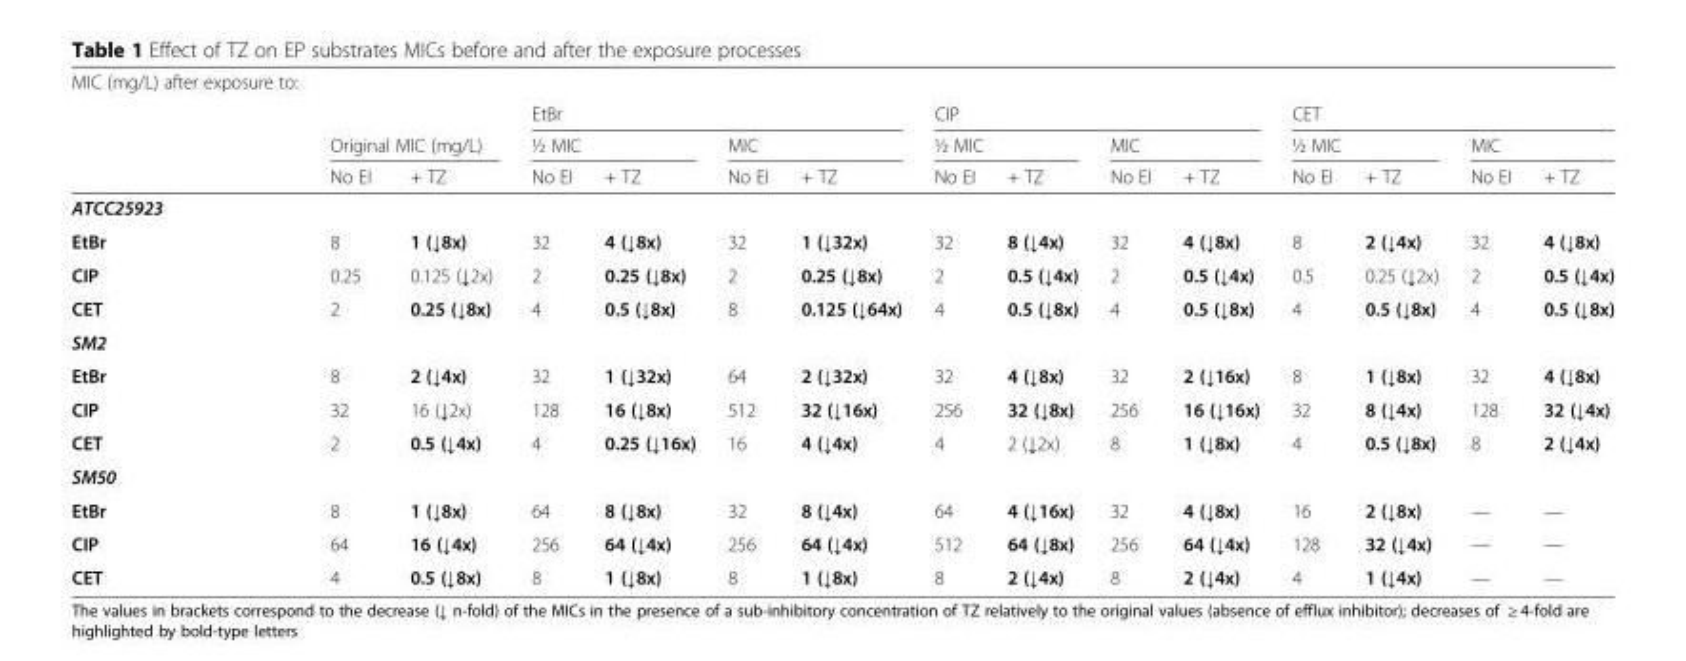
<table><thead><tr><td rowspan="4">MIC (mg/L) after exposure to:</td><td rowspan="2"></td><td rowspan="2"></td><td></td><td></td><td></td><td></td><td></td><td></td><td></td><td></td><td></td><td></td><td></td><td></td></tr><tr><td colspan="4">EtBr</td><td colspan="4">CIP</td><td colspan="4">CET</td></tr><tr><td colspan="2">Original MIC (mg/L)</td><td colspan="2">½ MIC</td><td colspan="2">MIC</td><td colspan="2">½ MIC</td><td colspan="2">MIC</td><td colspan="2">½ MIC</td><td colspan="2">MIC</td></tr><tr><td>No EI</td><td>+ TZ</td><td>No EI</td><td>+ TZ</td><td>No EI</td><td>+ TZ</td><td>No EI</td><td>+ TZ</td><td>No EI</td><td>+ TZ</td><td>No EI</td><td>+ TZ</td><td>No EI</td><td>+ TZ</td></tr></thead><tbody><tr><td colspan="15">ATCC25923</td></tr><tr><td>EtBr</td><td>8</td><td>1 (↓8x)</td><td>32</td><td>4 (↓8x)</td><td>32</td><td>1 (↓32x)</td><td>32</td><td>8 (↓4x)</td><td>32</td><td>4 (↓8x)</td><td>8</td><td>2 (↓4x)</td><td>32</td><td>4 (↓8x)</td></tr><tr><td>CIP</td><td>0.25</td><td>0.125 (↓2x)</td><td>2</td><td>0.25 (↓8x)</td><td>2</td><td>0.25 (↓8x)</td><td>2</td><td>0.5 (↓4x)</td><td>2</td><td>0.5 (↓4x)</td><td>0.5</td><td>0.25 (↓2x)</td><td>2</td><td>0.5 (↓4x)</td></tr><tr><td>CET</td><td>2</td><td>0.25 (↓8x)</td><td>4</td><td>0.5 (↓8x)</td><td>8</td><td>0.125 (↓64x)</td><td>4</td><td>0.5 (↓8x)</td><td>4</td><td>0.5 (↓8x)</td><td>4</td><td>0.5 (↓8x)</td><td>4</td><td>0.5 (↓8x)</td></tr><tr><td colspan="15">SM2</td></tr><tr><td>EtBr</td><td>8</td><td>2 (↓4x)</td><td>32</td><td>1 (↓32x)</td><td>64</td><td>2 (↓32x)</td><td>32</td><td>4 (↓8x)</td><td>32</td><td>2 (↓16x)</td><td>8</td><td>1 (↓8x)</td><td>32</td><td>4 (↓8x)</td></tr><tr><td>CIP</td><td>32</td><td>16 (↓2x)</td><td>128</td><td>16 (↓8x)</td><td>512</td><td>32 (↓16x)</td><td>256</td><td>32 (↓8x)</td><td>256</td><td>16 (↓16x)</td><td>32</td><td>8 (↓4x)</td><td>128</td><td>32 (↓4x)</td></tr><tr><td>CET</td><td>2</td><td>0.5 (↓4x)</td><td>4</td><td>0.25 (↓16x)</td><td>16</td><td>4 (↓4x)</td><td>4</td><td>2 (↓2x)</td><td>8</td><td>1 (↓8x)</td><td>4</td><td>0.5 (↓8x)</td><td>8</td><td>2 (↓4x)</td></tr><tr><td colspan="15">SM50</td></tr><tr><td>EtBr</td><td>8</td><td>1 (↓8x)</td><td>64</td><td>8 (↓8x)</td><td>32</td><td>8 (↓4x)</td><td>64</td><td>4 (↓16x)</td><td>32</td><td>4 (↓8x)</td><td>16</td><td>2 (↓8x)</td><td>—</td><td>—</td></tr><tr><td>CIP</td><td>64</td><td>16 (↓4x)</td><td>256</td><td>64 (↓4x)</td><td>256</td><td>64 (↓4x)</td><td>512</td><td>64 (↓8x)</td><td>256</td><td>64 (↓4x)</td><td>128</td><td>32 (↓4x)</td><td>—</td><td>—</td></tr><tr><td>CET</td><td>4</td><td>0.5 (↓8x)</td><td>8</td><td>1 (↓8x)</td><td>8</td><td>1 (↓8x)</td><td>8</td><td>2 (↓4x)</td><td>8</td><td>2 (↓4x)</td><td>4</td><td>1 (↓4x)</td><td>—</td><td>—</td></tr></tbody></table>